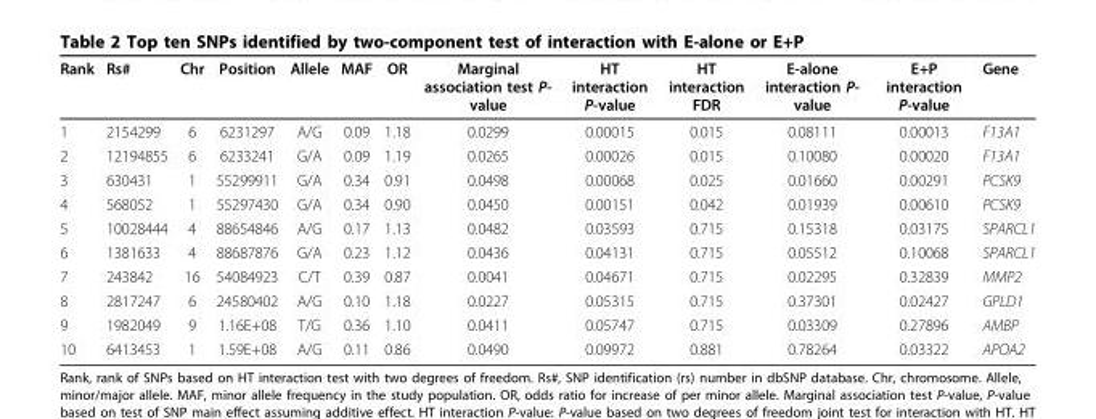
<table><thead><tr><td>Rank</td><td>Rs#</td><td>Chr</td><td>Position</td><td>Allele</td><td>MAF</td><td>OR</td><td>Marginal association test P- value</td><td>HT interaction P-value</td><td>HT interaction FDR</td><td>E-alone interaction P- value</td><td>E+P interaction P-value</td><td>Gene</td></tr></thead><tbody><tr><td>1</td><td>2154299</td><td>6</td><td>6231297</td><td>A/G</td><td>0.09</td><td>1.18</td><td>0.0299</td><td>0.00015</td><td>0.015</td><td>0.08111</td><td>0.00013</td><td>F13A1</td></tr><tr><td>2</td><td>12194855</td><td>6</td><td>6233241</td><td>G/A</td><td>0.09</td><td>1.19</td><td>0.0265</td><td>0.00026</td><td>0.015</td><td>0.10080</td><td>0.00020</td><td>F13A1</td></tr><tr><td>3</td><td>630431</td><td>1</td><td>55299911</td><td>G/A</td><td>0.34</td><td>0.91</td><td>0.0498</td><td>0.00068</td><td>0.025</td><td>0.01660</td><td>0.00291</td><td>PCSK9</td></tr><tr><td>4</td><td>568052</td><td>1</td><td>55297430</td><td>G/A</td><td>0.34</td><td>0.90</td><td>0.0450</td><td>0.00151</td><td>0.042</td><td>0.01939</td><td>0.00610</td><td>PCSK9</td></tr><tr><td>5</td><td>10028444</td><td>4</td><td>88654846</td><td>A/G</td><td>0.17</td><td>1.13</td><td>0.0482</td><td>0.03593</td><td>0.715</td><td>0.15318</td><td>0.03175</td><td>SPARCL1</td></tr><tr><td>6</td><td>1381633</td><td>4</td><td>88687876</td><td>G/A</td><td>0.23</td><td>1.12</td><td>0.0436</td><td>0.04131</td><td>0.715</td><td>0.05512</td><td>0.10068</td><td>SPARCL1</td></tr><tr><td>7</td><td>243842</td><td>16</td><td>54084923</td><td>C/T</td><td>0.39</td><td>0.87</td><td>0.0041</td><td>0.04671</td><td>0.715</td><td>0.02295</td><td>0.32839</td><td>MMP2</td></tr><tr><td>8</td><td>2817247</td><td>6</td><td>24580402</td><td>A/G</td><td>0.10</td><td>1.18</td><td>0.0227</td><td>0.05315</td><td>0.715</td><td>0.37301</td><td>0.02427</td><td>GPLD1</td></tr><tr><td>9</td><td>1982049</td><td>9</td><td>1.16E+08</td><td>T/G</td><td>0.36</td><td>1.10</td><td>0.0411</td><td>0.05747</td><td>0.715</td><td>0.03309</td><td>0.27896</td><td>AMBP</td></tr><tr><td>10</td><td>6413453</td><td>1</td><td>1.59E+08</td><td>A/G</td><td>0.11</td><td>0.86</td><td>0.0490</td><td>0.09972</td><td>0.881</td><td>0.78264</td><td>0.03322</td><td>APOA2</td></tr></tbody></table>